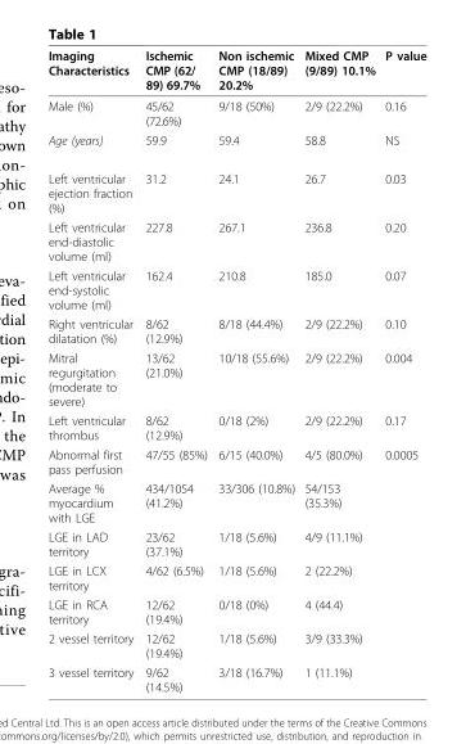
<table><thead><tr><td>Imaging Characteristics</td><td>Ischemic CMP (62/ 89) 69.7%</td><td>Non ischemic CMP (18/89) 20.2%</td><td>Mixed CMP (9/89) 10.1%</td><td>P value</td></tr></thead><tbody><tr><td>Male (%)</td><td>45/62 (72.6%)</td><td>9/18 (50%)</td><td>2/9 (22.2%)</td><td>0.16</td></tr><tr><td>Age (years)</td><td>59.9</td><td>59.4</td><td>58.8</td><td>NS</td></tr><tr><td>Left ventricular ejection fraction (%)</td><td>31.2</td><td>24.1</td><td>26.7</td><td>0.03</td></tr><tr><td>Left ventricular end-diastolic volume (ml)</td><td>227.8</td><td>267.1</td><td>236.8</td><td>0.20</td></tr><tr><td>Left ventricular end-systolic volume (ml)</td><td>162.4</td><td>210.8</td><td>185.0</td><td>0.07</td></tr><tr><td>Right ventricular dilatation (%)</td><td>8/62 (12.9%)</td><td>8/18 (44.4%)</td><td>2/9 (22.2%)</td><td>0.10</td></tr><tr><td>Mitral regurgitation (moderate to severe)</td><td>13/62 (21.0%)</td><td>10/18 (55.6%)</td><td>2/9 (22.2%)</td><td>0.004</td></tr><tr><td>Left ventricular thrombus</td><td>8/62 (12.9%)</td><td>0/18 (2%)</td><td>2/9 (22.2%)</td><td>0.17</td></tr><tr><td>Abnormal first pass perfusion</td><td>47/55 (85%)</td><td>6/15 (40.0%)</td><td>4/5 (80.0%)</td><td>0.0005</td></tr><tr><td>Average % myocardium with LGE</td><td>434/1054 (41.2%)</td><td>33/306 (10.8%)</td><td>54/153 (35.3%)</td><td></td></tr><tr><td>LGE in LAD territory</td><td>23/62 (37.1%)</td><td>1/18 (5.6%)</td><td>4/9 (11.1%)</td><td></td></tr><tr><td>LGE in LCX territory</td><td>4/62 (6.5%)</td><td>1/18 (5.6%)</td><td>2 (22.2%)</td><td></td></tr><tr><td>LGE in RCA territory</td><td>12/62 (19.4%)</td><td>0/18 (0%)</td><td>4 (44.4)</td><td></td></tr><tr><td>2 vessel territory</td><td>12/62 (19.4%)</td><td>1/18 (5.6%)</td><td>3/9 (33.3%)</td><td></td></tr><tr><td>3 vessel territory</td><td>9/62 (14.5%)</td><td>3/18 (16.7%)</td><td>1 (11.1%)</td><td></td></tr></tbody></table>